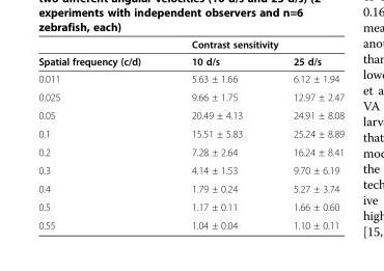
<table><thead><tr><td rowspan="2">Spatial frequency (c/d)</td><td colspan="2">Contrast sensitivity</td></tr><tr><td>10 d/s</td><td>25 d/s</td></tr></thead><tbody><tr><td>0.011</td><td>5.63 ± 1.66</td><td>6.12 ± 1.94</td></tr><tr><td>0.025</td><td>9.66 ± 1.75</td><td>12.97 ± 2.47</td></tr><tr><td>0.05</td><td>20.49 ± 4.13</td><td>24.91 ± 8.08</td></tr><tr><td>0.1</td><td>15.51 ± 5.83</td><td>25.24 ± 8.89</td></tr><tr><td>0.2</td><td>7.28 ± 2.64</td><td>16.24 ± 8.41</td></tr><tr><td>0.3</td><td>4.14 ± 1.53</td><td>9.70 ± 6.19</td></tr><tr><td>0.4</td><td>1.79 ± 0.24</td><td>5.27 ± 3.74</td></tr><tr><td>0.5</td><td>1.17 ± 0.11</td><td>1.66 ± 0.60</td></tr><tr><td>0.55</td><td>1.04 ± 0.04</td><td>1.10 ± 0.11</td></tr></tbody></table>